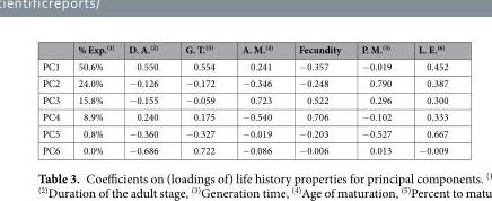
<table><thead><tr><td></td><td>% Exp.<sup>(1)</sup></td><td>D. A.<sup>(2)</sup></td><td>G. T.<sup>(3)</sup></td><td>A. M.<sup>(4)</sup></td><td>Fecundity</td><td>P. M.<sup>(5)</sup></td><td>L. E.<sup>(6)</sup></td></tr></thead><tbody><tr><td>PC1</td><td>50.6%</td><td>0.550</td><td>0.554</td><td>0.241</td><td>−0.357</td><td>−0.019</td><td>0.452</td></tr><tr><td>PC2</td><td>24.0%</td><td>−0.126</td><td>−0.172</td><td>−0.346</td><td>−0.248</td><td>0.790</td><td>0.387</td></tr><tr><td>PC3</td><td>15.8%</td><td>−0.155</td><td>−0.059</td><td>0.723</td><td>0.522</td><td>0.296</td><td>0.300</td></tr><tr><td>PC4</td><td>8.9%</td><td>0.240</td><td>0.175</td><td>−0.540</td><td>0.706</td><td>−0.102</td><td>0.333</td></tr><tr><td>PC5</td><td>0.8%</td><td>−0.360</td><td>−0.327</td><td>−0.019</td><td>−0.203</td><td>−0.527</td><td>0.667</td></tr><tr><td>PC6</td><td>0.0%</td><td>−0.686</td><td>0.722</td><td>−0.086</td><td>−0.006</td><td>0.013</td><td>−0.009</td></tr></tbody></table>